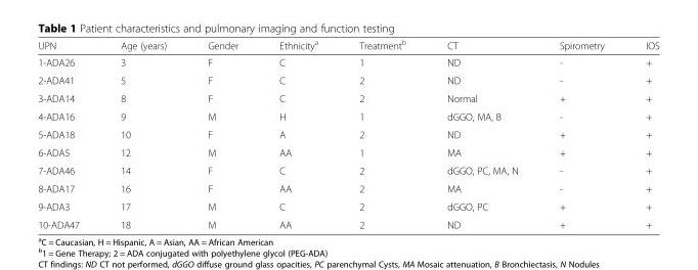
<table><thead><tr><td>UPN</td><td>Age (years)</td><td>Gender</td><td>Ethnicity<sup>a</sup></td><td>Treatment<sup>b</sup></td><td>CT</td><td>Spirometry</td><td>IOS</td></tr></thead><tbody><tr><td>1-ADA26</td><td>3</td><td>F</td><td>C</td><td>1</td><td>ND</td><td>-</td><td>+</td></tr><tr><td>2-ADA41</td><td>5</td><td>F</td><td>C</td><td>2</td><td>ND</td><td>-</td><td>+</td></tr><tr><td>3-ADA14</td><td>8</td><td>F</td><td>C</td><td>2</td><td>Normal</td><td>+</td><td>+</td></tr><tr><td>4-ADA16</td><td>9</td><td>M</td><td>H</td><td>1</td><td>dGGO, MA, B</td><td>-</td><td>+</td></tr><tr><td>5-ADA18</td><td>10</td><td>F</td><td>A</td><td>2</td><td>ND</td><td>+</td><td>+</td></tr><tr><td>6-ADA5</td><td>12</td><td>M</td><td>AA</td><td>1</td><td>MA</td><td>+</td><td>+</td></tr><tr><td>7-ADA46</td><td>14</td><td>F</td><td>C</td><td>2</td><td>dGGO, PC, MA, N</td><td>-</td><td>+</td></tr><tr><td>8-ADA17</td><td>16</td><td>F</td><td>AA</td><td>2</td><td>MA</td><td>-</td><td>+</td></tr><tr><td>9-ADA3</td><td>17</td><td>M</td><td>C</td><td>2</td><td>dGGO, PC</td><td>+</td><td>+</td></tr><tr><td>10-ADA47</td><td>18</td><td>M</td><td>AA</td><td>2</td><td>ND</td><td>+</td><td>+</td></tr></tbody></table>